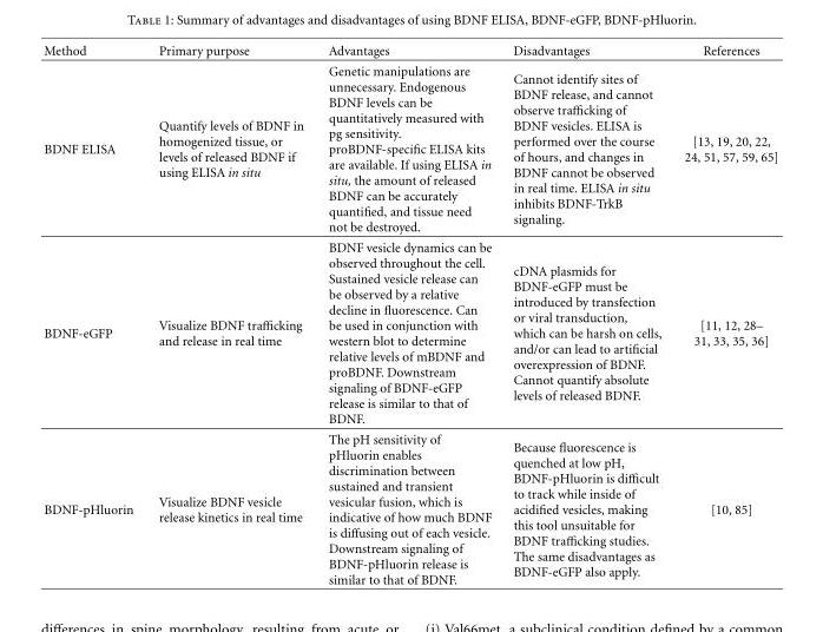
<table><thead><tr><td>Method</td><td>Primary purpose</td><td>Advantages</td><td>Disadvantages</td><td>References</td></tr></thead><tbody><tr><td>BDNF ELISA</td><td>Quantify levels of BDNF in homogenized tissue, or levels of released BDNF if using ELISA in situ</td><td>Genetic manipulations are unnecessary. Endogenous BDNF levels can be quantitatively measured with pg sensitivity. proBDNF-specific ELISA kits are available. If using ELISA in situ, the amount of released BDNF can be accurately quantified, and tissue need not be destroyed.</td><td>Cannot identify sites of BDNF release, and cannot observe trafficking of BDNF vesicles. ELISA is performed over the course of hours, and changes in BDNF cannot be observed in real time. ELISA in situ inhibits BDNF-TrkB signaling.</td><td>[13, 19, 20, 22, 24, 51, 57, 59, 65]</td></tr><tr><td>BDNF-eGFP</td><td>Visualize BDNF trafficking and release in real time</td><td>BDNF vesicle dynamics can be observed throughout the cell. Sustained vesicle release can be observed by a relative decline in fluorescence. Can be used in conjunction with western blot to determine relative levels of mBDNF and proBDNF. Downstream signaling of BDNF-eGFP release is similar to that of BDNF.</td><td>cDNA plasmids for BDNF-eGFP must be introduced by transfection or viral transduction, which can be harsh on cells, and/or can lead to artificial overexpression of BDNF. Cannot quantify absolute levels of released BDNF.</td><td>[11, 12, 28– 31, 33, 35, 36]</td></tr><tr><td>BDNF-pHluorin</td><td>Visualize BDNF vesicle release kinetics in real time</td><td>The pH sensitivity of pHluorin enables discrimination between sustained and transient vesicular fusion, which is indicative of how much BDNF is diffusing out of each vesicle. Downstream signaling of BDNF-pHluorin release is similar to that of BDNF.</td><td>Because fluorescence is quenched at low pH, BDNF-pHluorin is difficult to track while inside of acidified vesicles, making this tool unsuitable for BDNF trafficking studies. The same disadvantages as BDNF-eGFP also apply.</td><td>[10, 85]</td></tr></tbody></table>